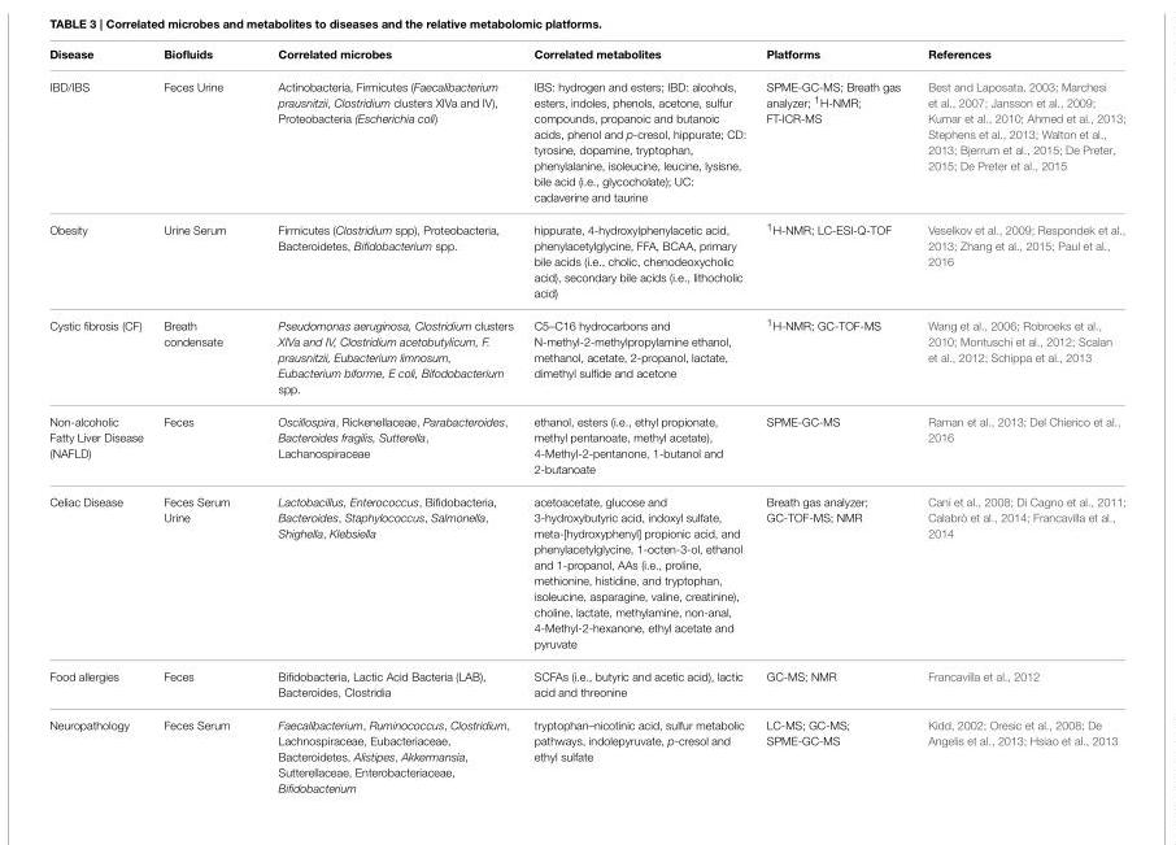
<table><thead><tr><td>Disease</td><td>Biofluids</td><td>Correlated microbes</td><td>Correlated metabolites</td><td>Platforms</td><td>References</td></tr></thead><tbody><tr><td>IBD/IBS</td><td>Feces Urine</td><td>Actinobacteria, Firmicutes (Faecalibacterium prausnitzii, Clostridium clusters XIVa and IV), Proteobacteria (Escherichia coli)</td><td>IBS: hydrogen and esters; IBD: alcohols, esters, indoles, phenols, acetone, sulfur compounds, propanoic and butanoic acids, phenol and p-cresol, hippurate; CD: tyrosine, dopamine, tryptophan, phenylalanine, isoleucine, leucine, lysisne, bile acid (i.e., glycocholate); UC: cadaverine and taurine</td><td>SPME-GC-MS; Breath gas analyzer; <sup>1</sup>H-NMR; FT-ICR-MS</td><td>Best and Laposata, 2003; Marchesi et al., 2007; Jansson et al., 2009; Kumar et al., 2010; Ahmed et al., 2013; Stephens et al., 2013; Walton et al., 2013; Bjerrum et al., 2015; De Preter, 2015; De Preter et al., 2015</td></tr><tr><td>Obesity</td><td>Urine Serum</td><td>Firmicutes (Clostridium spp), Proteobacteria, Bacteroidetes, Bifidobacterium spp.</td><td>hippurate, 4-hydroxylphenylacetic acid, phenylacetylglycine, FFA, BCAA, primary bile acids (i.e., cholic, chenodeoxycholic acid), secondary bile acids (i.e., lithocholic acid)</td><td><sup>1</sup>H-NMR; LC-ESI-Q-TOF</td><td>Veselkov et al., 2009; Respondek et al., 2013; Zhang et al., 2015; Paul et al., 2016</td></tr><tr><td>Cystic fibrosis (CF)</td><td>Breath condensate</td><td>Pseudomonas aeruginosa, Clostridium clusters XIVa and IV, Clostridium acetobutylicum, F. prausnitzii, Eubacterium limnosum, Eubacterium biforme, E coli, Bifodobacterium spp.</td><td>C5–C16 hydrocarbons and N-methyl-2-methylpropylamine ethanol, methanol, acetate, 2-propanol, lactate, dimethyl sulfide and acetone</td><td><sup>1</sup>H-NMR; GC-TOF-MS</td><td>Wang et al., 2006; Robroeks et al., 2010; Montuschi et al., 2012; Scalan et al., 2012; Schippa et al., 2013</td></tr><tr><td>Non-alcoholic Fatty Liver Disease (NAFLD)</td><td>Feces</td><td>Oscillospira, Rickenellaceae, Parabacteroides, Bacteroides fragilis, Sutterella, Lachanospiraceae</td><td>ethanol, esters (i.e., ethyl propionate, methyl pentanoate, methyl acetate), 4-Methyl-2-pentanone, 1-butanol and 2-butanoate</td><td>SPME-GC-MS</td><td>Raman et al., 2013; Del Chierico et al., 2016</td></tr><tr><td>Celiac Disease</td><td>Feces Serum Urine</td><td>Lactobacillus, Enterococcus, Bifidobacteria, Bacteroides, Staphylococcus, Salmonella, Shighella, Klebsiella</td><td>acetoacetate, glucose and 3-hydroxybutyric acid, indoxyl sulfate, meta-[hydroxyphenyl] propionic acid, and phenylacetylglycine, 1-octen-3-ol, ethanol and 1-propanol, AAs (i.e., proline, methionine, histidine, and tryptophan, isoleucine, asparagine, valine, creatinine), choline, lactate, methylamine, non-anal, 4-Methyl-2-hexanone, ethyl acetate and pyruvate</td><td>Breath gas analyzer; GC-TOF-MS; NMR</td><td>Cani et al., 2008; Di Cagno et al., 2011; Calabrò et al., 2014; Francavilla et al., 2014</td></tr><tr><td>Food allergies</td><td>Feces</td><td>Bifidobacteria, Lactic Acid Bacteria (LAB), Bacteroides, Clostridia</td><td>SCFAs (i.e., butyric and acetic acid), lactic acid and threonine</td><td>GC-MS; NMR</td><td>Francavilla et al., 2012</td></tr><tr><td>Neuropathology</td><td>Feces Serum</td><td>Faecalibacterium, Ruminococcus, Clostridium, Lachnospiraceae, Eubacteriaceae, Bacteroidetes, Alistipes, Akkermansia, Sutterellaceae, Enterobacteriaceae, Bifidobacterium</td><td>tryptophan–nicotinic acid, sulfur metabolic pathways, indolepyruvate, p-cresol and ethyl sulfate</td><td>LC-MS; GC-MS; SPME-GC-MS</td><td>Kidd, 2002; Oresic et al., 2008; De Angelis et al., 2013; Hsiao et al., 2013</td></tr></tbody></table>